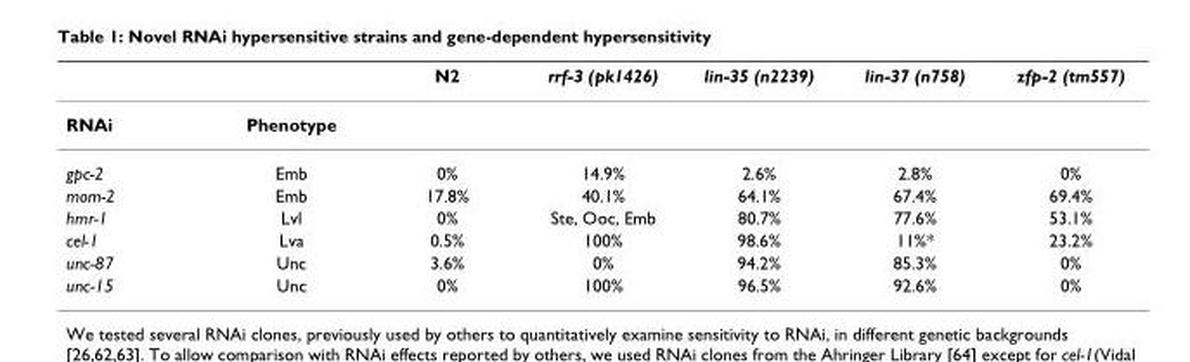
<table><thead><tr><td></td><td></td><td>N2</td><td>rrf-3 (pk1426)</td><td>lin-35 (n2239)</td><td>lin-37 (n758)</td><td>zfp-2 (tm557)</td></tr></thead><tbody><tr><td>RNAi</td><td>Phenotype</td><td></td><td></td><td></td><td></td><td></td></tr><tr><td>gpc-2</td><td>Emb</td><td>0%</td><td>14.9%</td><td>2.6%</td><td>2.8%</td><td>0%</td></tr><tr><td>mom-2</td><td>Emb</td><td>17.8%</td><td>40.1%</td><td>64.1%</td><td>67.4%</td><td>69.4%</td></tr><tr><td>hmr-1</td><td>Lvl</td><td>0%</td><td>Ste, Ooc, Emb</td><td>80.7%</td><td>77.6%</td><td>53.1%</td></tr><tr><td>cel-1</td><td>Lva</td><td>0.5%</td><td>100%</td><td>98.6%</td><td>11%*</td><td>23.2%</td></tr><tr><td>unc-87</td><td>Unc</td><td>3.6%</td><td>0%</td><td>94.2%</td><td>85.3%</td><td>0%</td></tr><tr><td>unc-15</td><td>Unc</td><td>0%</td><td>100%</td><td>96.5%</td><td>92.6%</td><td>0%</td></tr></tbody></table>